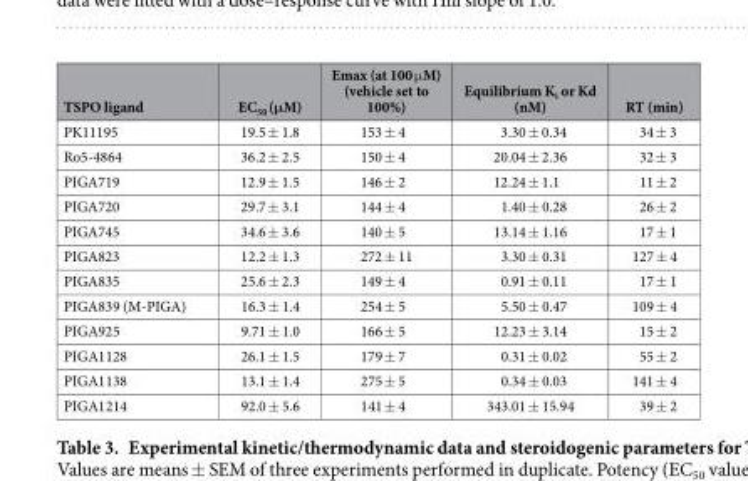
<table><thead><tr><td>TSPO ligand</td><td>EC<sub>50</sub> (μM)</td><td>Emax (at 100 μ M) (vehicle set to 100%)</td><td>Equilibrium K<sub>i</sub> or Kd (nM)</td><td>RT (min)</td></tr></thead><tbody><tr><td>PK11195</td><td>19.5 ± 1.8</td><td>153 ± 4</td><td>3.30 ± 0.34</td><td>34 ± 3</td></tr><tr><td>Ro5-4864</td><td>36.2 ± 2.5</td><td>150 ± 4</td><td>20.04 ± 2.36</td><td>32 ± 3</td></tr><tr><td>PIGA719</td><td>12.9 ± 1.5</td><td>146 ± 2</td><td>12.24 ± 1.1</td><td>11 ± 2</td></tr><tr><td>PIGA720</td><td>29.7 ± 3.1</td><td>144 ± 4</td><td>1.40 ± 0.28</td><td>26 ± 2</td></tr><tr><td>PIGA745</td><td>34.6 ± 3.6</td><td>140 ± 5</td><td>13.14 ± 1.16</td><td>17 ± 1</td></tr><tr><td>PIGA823</td><td>12.2 ± 1.3</td><td>272 ± 11</td><td>3.30 ± 0.31</td><td>127 ± 4</td></tr><tr><td>PIGA835</td><td>25.6 ± 2.3</td><td>149 ± 4</td><td>0.91 ± 0.11</td><td>17 ± 1</td></tr><tr><td>PIGA839 (M-PIGA)</td><td>16.3 ± 1.4</td><td>254 ± 5</td><td>5.50 ± 0.47</td><td>109 ± 4</td></tr><tr><td>PIGA925</td><td>9.71 ± 1.0</td><td>166 ± 5</td><td>12.23 ± 3.14</td><td>15 ± 2</td></tr><tr><td>PIGA1128</td><td>26.1 ± 1.5</td><td>179 ± 7</td><td>0.31 ± 0.02</td><td>55 ± 2</td></tr><tr><td>PIGA1138</td><td>13.1 ± 1.4</td><td>275 ± 5</td><td>0.34 ± 0.03</td><td>141 ± 4</td></tr><tr><td>PIGA1214</td><td>92.0 ± 5.6</td><td>141 ± 4</td><td>343.01 ± 15.94</td><td>39 ± 2</td></tr></tbody></table>